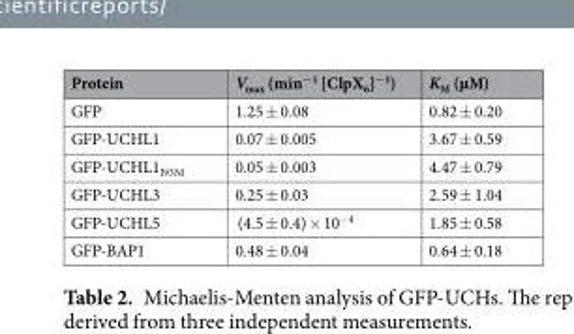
<table><thead><tr><td>Protein</td><td>V<sub>max</sub> (min<sup>−1</sup> [ClpX<sub>6</sub>]<sup>−1</sup>)</td><td>K<sub>M</sub> (µM)</td></tr></thead><tbody><tr><td>GFP</td><td>1.25 ± 0.08</td><td>0.82 ± 0.20</td></tr><tr><td>GFP-UCHL1</td><td>0.07 ± 0.005</td><td>3.67 ± 0.59</td></tr><tr><td>GFP-UCHL1<sub>I93M</sub></td><td>0.05 ± 0.003</td><td>4.47 ± 0.79</td></tr><tr><td>GFP-UCHL3</td><td>0.25 ± 0.03</td><td>2.59 ± 1.04</td></tr><tr><td>GFP-UCHL5</td><td>(4.5 ± 0.4) × 10<sup>−4</sup></td><td>1.85 ± 0.58</td></tr><tr><td>GFP-BAP1</td><td>0.48 ± 0.04</td><td>0.64 ± 0.18</td></tr></tbody></table>